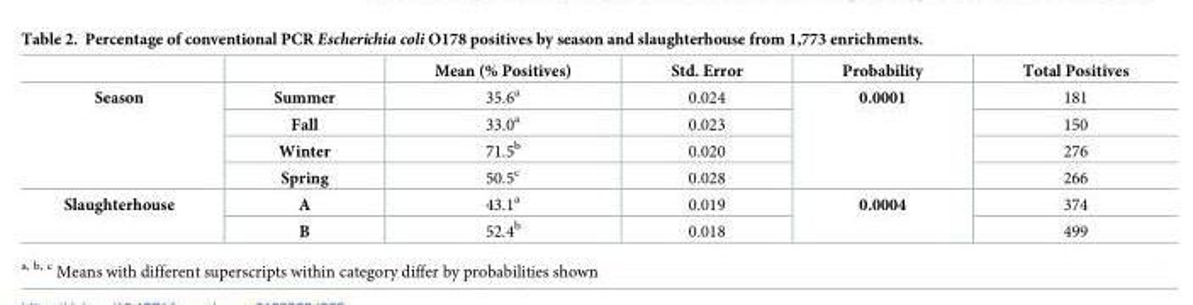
<table><thead><tr><td></td><td></td><td>Mean (% Positives)</td><td>Std. Error</td><td>Probability</td><td>Total Positives</td></tr></thead><tbody><tr><td rowspan="4">Season</td><td>Summer</td><td>35.6<sup>a</sup></td><td>0.024</td><td rowspan="4">0.0001</td><td>181</td></tr><tr><td>Fall</td><td>33.0<sup>a</sup></td><td>0.023</td><td>150</td></tr><tr><td>Winter</td><td>71.5<sup>b</sup></td><td>0.020</td><td>276</td></tr><tr><td>Spring</td><td>50.5<sup>c</sup></td><td>0.028</td><td>266</td></tr><tr><td rowspan="2">Slaughterhouse</td><td>A</td><td>43.1<sup>a</sup></td><td>0.019</td><td rowspan="2">0.0004</td><td>374</td></tr><tr><td>B</td><td>52.4<sup>b</sup></td><td>0.018</td><td>499</td></tr></tbody></table>